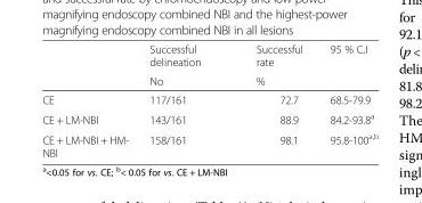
<table><thead><tr><td rowspan="2"></td><td rowspan="2">Successful delineation No</td><td rowspan="2">Successful rate %</td><td rowspan="2">95 % C.I</td></tr><tr></tr></thead><tbody><tr><td>CE</td><td>117/161</td><td>72.7</td><td>68.5-79.9</td></tr><tr><td>CE + LM-NBI</td><td>143/161</td><td>88.9</td><td>84.2-93.8<sup>a</sup></td></tr><tr><td>CE + LM-NBI + HM- NBI</td><td>158/161</td><td>98.1</td><td>95.8-100<sup>a,b</sup></td></tr></tbody></table>